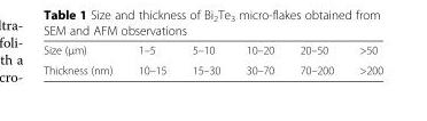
<table><tbody><tr><td>Size (μm)</td><td>1–5</td><td>5–10</td><td>10–20</td><td>20–50</td><td>&gt;50</td></tr><tr><td>Thickness (nm)</td><td>10–15</td><td>15–30</td><td>30–70</td><td>70–200</td><td>&gt;200</td></tr></tbody></table>